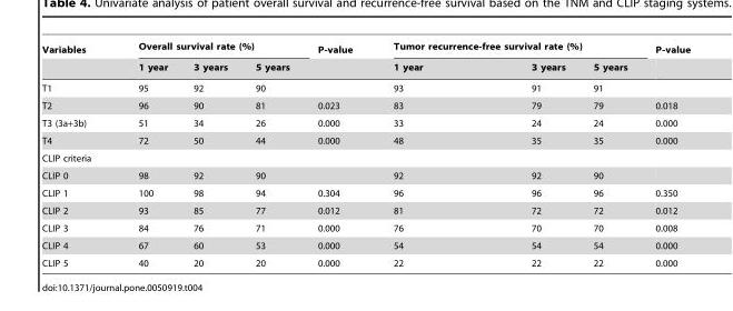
<table><thead><tr><td rowspan="2">Variables</td><td colspan="3">Overall survival rate (%)</td><td rowspan="2">P-value</td><td colspan="3">Tumor recurrence-free survival rate (%)</td><td rowspan="2">P-value</td></tr><tr><td>1 year</td><td>3 years</td><td>5 years</td><td>1 year</td><td>3 years</td><td>5 years</td></tr></thead><tbody><tr><td>T1</td><td>95</td><td>92</td><td>90</td><td></td><td>93</td><td>91</td><td>91</td><td></td></tr><tr><td>T2</td><td>96</td><td>90</td><td>81</td><td>0.023</td><td>83</td><td>79</td><td>79</td><td>0.018</td></tr><tr><td>T3 (3a+3b)</td><td>51</td><td>34</td><td>26</td><td>0.000</td><td>33</td><td>24</td><td>24</td><td>0.000</td></tr><tr><td>T4</td><td>72</td><td>50</td><td>44</td><td>0.000</td><td>48</td><td>35</td><td>35</td><td>0.000</td></tr><tr><td colspan="9">CLIP criteria</td></tr><tr><td>CLIP 0</td><td>98</td><td>92</td><td>90</td><td></td><td>92</td><td>92</td><td>90</td><td></td></tr><tr><td>CLIP 1</td><td>100</td><td>98</td><td>94</td><td>0.304</td><td>96</td><td>96</td><td>96</td><td>0.350</td></tr><tr><td>CLIP 2</td><td>93</td><td>85</td><td>77</td><td>0.012</td><td>81</td><td>72</td><td>72</td><td>0.012</td></tr><tr><td>CLIP 3</td><td>84</td><td>76</td><td>71</td><td>0.000</td><td>76</td><td>70</td><td>70</td><td>0.008</td></tr><tr><td>CLIP 4</td><td>67</td><td>60</td><td>53</td><td>0.000</td><td>54</td><td>54</td><td>54</td><td>0.000</td></tr><tr><td>CLIP 5</td><td>40</td><td>20</td><td>20</td><td>0.000</td><td>22</td><td>22</td><td>22</td><td>0.000</td></tr></tbody></table>